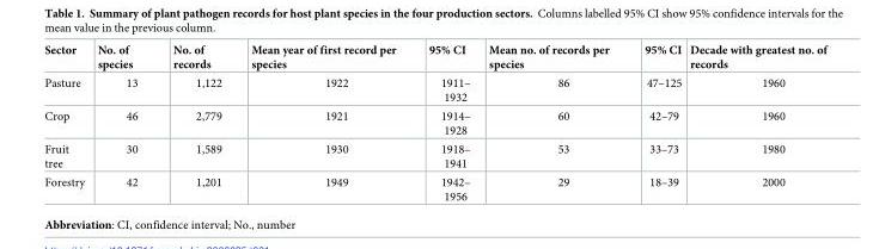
<table><thead><tr><td>Sector</td><td>No. of species</td><td>No. of records</td><td>Mean year of first record per species</td><td>95% CI</td><td>Mean no. of records per species</td><td>95% CI</td><td>Decade with greatest no. of records</td></tr></thead><tbody><tr><td>Pasture</td><td>13</td><td>1,122</td><td>1922</td><td>1911– 1932</td><td>86</td><td>47–125</td><td>1960</td></tr><tr><td>Crop</td><td>46</td><td>2,779</td><td>1921</td><td>1914– 1928</td><td>60</td><td>42–79</td><td>1960</td></tr><tr><td>Fruit tree</td><td>30</td><td>1,589</td><td>1930</td><td>1918– 1941</td><td>53</td><td>33–73</td><td>1980</td></tr><tr><td>Forestry</td><td>42</td><td>1,201</td><td>1949</td><td>1942– 1956</td><td>29</td><td>18–39</td><td>2000</td></tr></tbody></table>